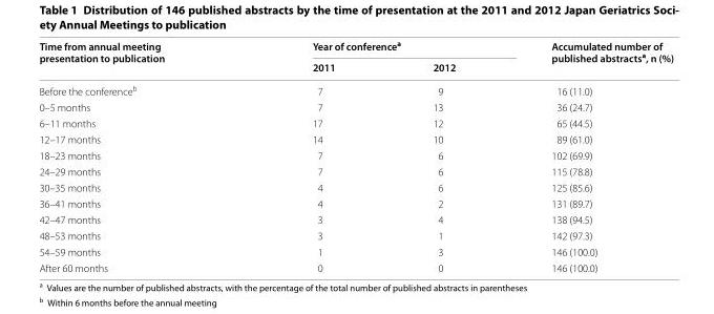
<table><thead><tr><td rowspan="2">Time from annual meeting presentation to publication</td><td colspan="2">Year of conference<sup>a</sup></td><td rowspan="2">Accumulated number of published abstracts<sup>a</sup>, n (%)</td></tr><tr><td>2011</td><td>2012</td></tr></thead><tbody><tr><td>Before the conference<sup>b</sup></td><td>7</td><td>9</td><td>16 (11.0)</td></tr><tr><td>0–5 months</td><td>7</td><td>13</td><td>36 (24.7)</td></tr><tr><td>6–11 months</td><td>17</td><td>12</td><td>65 (44.5)</td></tr><tr><td>12–17 months</td><td>14</td><td>10</td><td>89 (61.0)</td></tr><tr><td>18–23 months</td><td>7</td><td>6</td><td>102 (69.9)</td></tr><tr><td>24–29 months</td><td>7</td><td>6</td><td>115 (78.8)</td></tr><tr><td>30–35 months</td><td>4</td><td>6</td><td>125 (85.6)</td></tr><tr><td>36–41 months</td><td>4</td><td>2</td><td>131 (89.7)</td></tr><tr><td>42–47 months</td><td>3</td><td>4</td><td>138 (94.5)</td></tr><tr><td>48–53 months</td><td>3</td><td>1</td><td>142 (97.3)</td></tr><tr><td>54–59 months</td><td>1</td><td>3</td><td>146 (100.0)</td></tr><tr><td>After 60 months</td><td>0</td><td>0</td><td>146 (100.0)</td></tr></tbody></table>